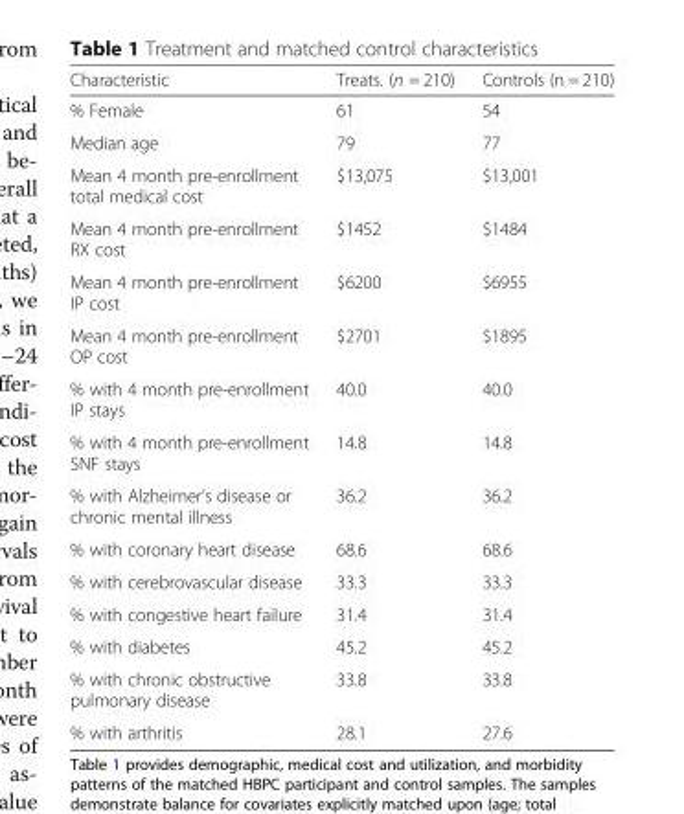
<table><thead><tr><td>Characteristic</td><td>Treats. (n = 210)</td><td>Controls (n = 210)</td></tr></thead><tbody><tr><td>% Female</td><td>61</td><td>54</td></tr><tr><td>Median age</td><td>79</td><td>77</td></tr><tr><td>Mean 4 month pre-enrollment total medical cost</td><td>$13,075</td><td>$13,001</td></tr><tr><td>Mean 4 month pre-enrollment RX cost</td><td>$1452</td><td>$1484</td></tr><tr><td>Mean 4 month pre-enrollment IP cost</td><td>$6200</td><td>$6955</td></tr><tr><td>Mean 4 month pre-enrollment OP cost</td><td>$2701</td><td>$1895</td></tr><tr><td>% with 4 month pre-enrollment IP stays</td><td>40.0</td><td>40.0</td></tr><tr><td>% with 4 month pre-enrollment SNF stays</td><td>14.8</td><td>14.8</td></tr><tr><td>% with Alzheimer’s disease or chronic mental illness</td><td>36.2</td><td>36.2</td></tr><tr><td>% with coronary heart disease</td><td>68.6</td><td>68.6</td></tr><tr><td>% with cerebrovascular disease</td><td>33.3</td><td>33.3</td></tr><tr><td>% with congestive heart failure</td><td>31.4</td><td>31.4</td></tr><tr><td>% with diabetes</td><td>45.2</td><td>45.2</td></tr><tr><td>% with chronic obstructive pulmonary disease</td><td>33.8</td><td>33.8</td></tr><tr><td>% with arthritis</td><td>28.1</td><td>27.6</td></tr></tbody></table>